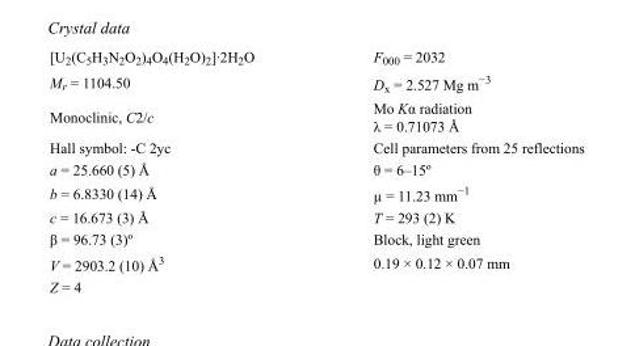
<table><tbody><tr><td>[U<sub>2</sub>(C<sub>5</sub>H<sub>3</sub>N<sub>2</sub>O<sub>2</sub>)<sub>4</sub>O<sub>4</sub>(H<sub>2</sub>O)<sub>2</sub>]·2H<sub>2</sub>O</td><td>F000 = 2032</td></tr><tr><td>M<sub>r</sub> = 1104.50</td><td>D<sub>x</sub> = 2.527 Mg m<sup>−3</sup></td></tr><tr><td>Monoclinic, C2/c</td><td>Mo Kα radiation λ = 0.71073 Å</td></tr><tr><td>Hall symbol: -C 2yc</td><td>Cell parameters from 25 reflections</td></tr><tr><td>a = 25.660 (5) Å</td><td>θ = 6–15º</td></tr><tr><td>b = 6.8330 (14) Å</td><td>µ = 11.23 mm<sup>−1</sup></td></tr><tr><td>c = 16.673 (3) Å</td><td>T = 293 (2) K</td></tr><tr><td>β = 96.73 (3)º</td><td>Block, light green</td></tr><tr><td>V = 2903.2 (10) Å<sup>3</sup></td><td>0.19 × 0.12 × 0.07 mm</td></tr><tr><td>Z = 4</td><td></td></tr></tbody></table>